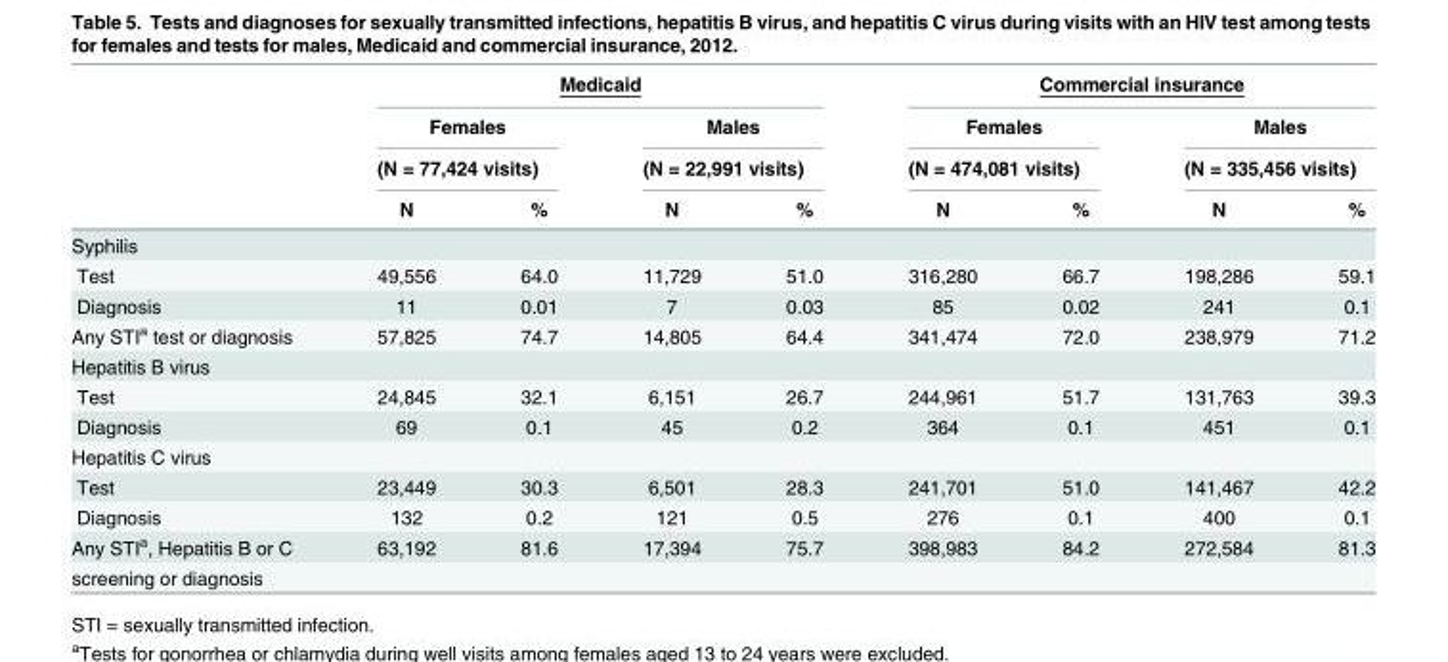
<table><thead><tr><td rowspan="4"></td><td colspan="4">Medicaid</td><td colspan="4">Commercial insurance</td></tr><tr><td rowspan="2" colspan="2">Females (N = 77,424 visits)</td><td rowspan="2" colspan="2">Males (N = 22,991 visits)</td><td rowspan="2" colspan="2">Females (N = 474,081 visits)</td><td rowspan="2" colspan="2">Males (N = 335,456 visits)</td></tr><tr></tr><tr><td>N</td><td>%</td><td>N</td><td>%</td><td>N</td><td>%</td><td>N</td><td>%</td></tr></thead><tbody><tr><td colspan="9">Syphilis</td></tr><tr><td>Test</td><td>49,556</td><td>64.0</td><td>11,729</td><td>51.0</td><td>316,280</td><td>66.7</td><td>198,286</td><td>59.1</td></tr><tr><td>Diagnosis</td><td>11</td><td>0.01</td><td>7</td><td>0.03</td><td>85</td><td>0.02</td><td>241</td><td>0.1</td></tr><tr><td>Any STI<sup>a</sup> test or diagnosis</td><td>57,825</td><td>74.7</td><td>14,805</td><td>64.4</td><td>341,474</td><td>72.0</td><td>238,979</td><td>71.2</td></tr><tr><td colspan="9">Hepatitis B virus</td></tr><tr><td>Test</td><td>24,845</td><td>32.1</td><td>6,151</td><td>26.7</td><td>244,961</td><td>51.7</td><td>131,763</td><td>39.3</td></tr><tr><td>Diagnosis</td><td>69</td><td>0.1</td><td>45</td><td>0.2</td><td>364</td><td>0.1</td><td>451</td><td>0.1</td></tr><tr><td colspan="9">Hepatitis C virus</td></tr><tr><td>Test</td><td>23,449</td><td>30.3</td><td>6,501</td><td>28.3</td><td>241,701</td><td>51.0</td><td>141,467</td><td>42.2</td></tr><tr><td>Diagnosis</td><td>132</td><td>0.2</td><td>121</td><td>0.5</td><td>276</td><td>0.1</td><td>400</td><td>0.1</td></tr><tr><td>Any STI<sup>a</sup>, Hepatitis B or C</td><td>63,192</td><td>81.6</td><td>17,394</td><td>75.7</td><td>398,983</td><td>84.2</td><td>272,584</td><td>81.3</td></tr><tr><td>screening or diagnosis</td><td></td><td></td><td></td><td></td><td></td><td></td><td></td><td></td></tr></tbody></table>